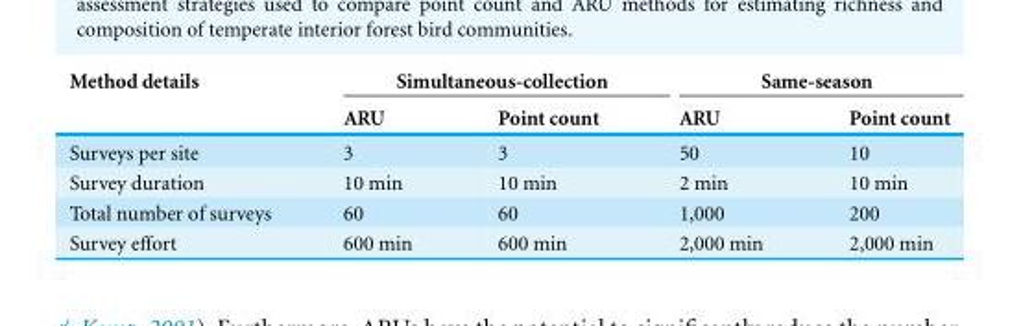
<table><thead><tr><td rowspan="2">Method details</td><td colspan="2">Simultaneous-collection</td><td colspan="2">Same-season</td></tr><tr><td>ARU</td><td>Point count</td><td>ARU</td><td>Point count</td></tr></thead><tbody><tr><td>Surveys per site</td><td>3</td><td>3</td><td>50</td><td>10</td></tr><tr><td>Survey duration</td><td>10 min</td><td>10 min</td><td>2 min</td><td>10 min</td></tr><tr><td>Total number of surveys</td><td>60</td><td>60</td><td>1,000</td><td>200</td></tr><tr><td>Survey effort</td><td>600 min</td><td>600 min</td><td>2,000 min</td><td>2,000 min</td></tr></tbody></table>